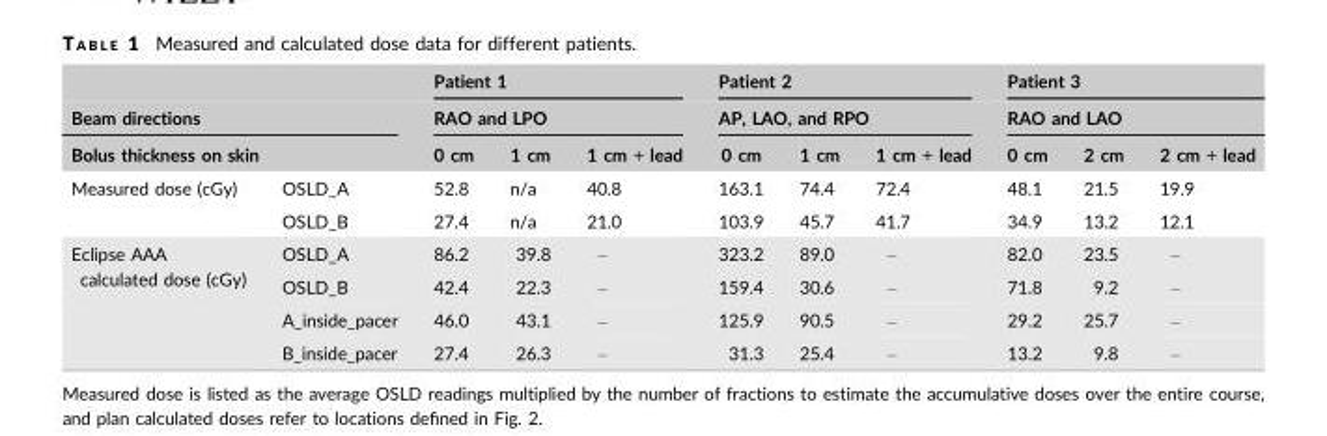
<table><thead><tr><td></td><td></td><td rowspan="2" colspan="3">Patient 1 RAO and LPO</td><td rowspan="2" colspan="3">Patient 2 AP, LAO, and RPO</td><td rowspan="2" colspan="3">Patient 3 RAO and LAO</td></tr><tr><td rowspan="2" colspan="2">Beam directions Bolus thickness on skin</td></tr><tr><td>0 cm</td><td>1 cm</td><td>1 cm + lead</td><td>0 cm</td><td>1 cm</td><td>1 cm + lead</td><td>0 cm</td><td>2 cm</td><td>2 cm + lead</td></tr></thead><tbody><tr><td rowspan="2">Measured dose (cGy)</td><td>OSLD_A</td><td>52.8</td><td>n/a</td><td>40.8</td><td>163.1</td><td>74.4</td><td>72.4</td><td>48.1</td><td>21.5</td><td>19.9</td></tr><tr><td>OSLD_B</td><td>27.4</td><td>n/a</td><td>21.0</td><td>103.9</td><td>45.7</td><td>41.7</td><td>34.9</td><td>13.2</td><td>12.1</td></tr><tr><td rowspan="4">Eclipse AAA calculated dose (cGy)</td><td>OSLD_A</td><td>86.2</td><td>39.8</td><td>–</td><td>323.2</td><td>89.0</td><td>–</td><td>82.0</td><td>23.5</td><td>–</td></tr><tr><td>OSLD_B</td><td>42.4</td><td>22.3</td><td>–</td><td>159.4</td><td>30.6</td><td>–</td><td>71.8</td><td>9.2</td><td>–</td></tr><tr><td>A_inside_pacer</td><td>46.0</td><td>43.1</td><td>–</td><td>125.9</td><td>90.5</td><td>–</td><td>29.2</td><td>25.7</td><td>–</td></tr><tr><td>B_inside_pacer</td><td>27.4</td><td>26.3</td><td>–</td><td>31.3</td><td>25.4</td><td>–</td><td>13.2</td><td>9.8</td><td>–</td></tr></tbody></table>